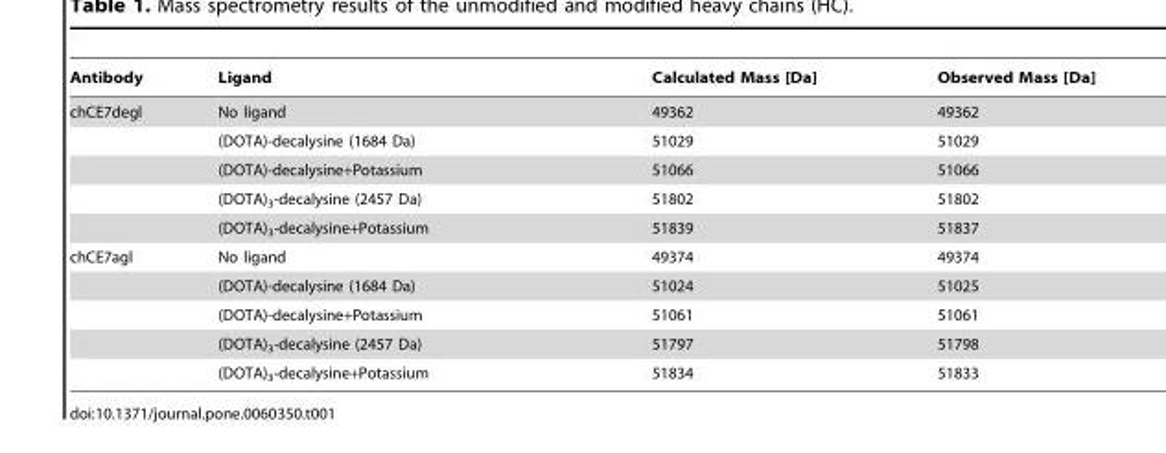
<table><thead><tr><td>Antibody</td><td>Ligand</td><td>Calculated Mass [Da]</td><td>Observed Mass [Da]</td></tr></thead><tbody><tr><td rowspan="5">chCE7degl</td><td>No ligand</td><td>49362</td><td>49362</td></tr><tr><td>(DOTA)-decalysine (1684 Da)</td><td>51029</td><td>51029</td></tr><tr><td>(DOTA)-decalysine+Potassium</td><td>51066</td><td>51066</td></tr><tr><td>(DOTA)<sub>3</sub>-decalysine (2457 Da)</td><td>51802</td><td>51802</td></tr><tr><td>(DOTA)<sub>3</sub>-decalysine+Potassium</td><td>51839</td><td>51837</td></tr><tr><td rowspan="5">chCE7agl</td><td>No ligand</td><td>49374</td><td>49374</td></tr><tr><td>(DOTA)-decalysine (1684 Da)</td><td>51024</td><td>51025</td></tr><tr><td>(DOTA)-decalysine+Potassium</td><td>51061</td><td>51061</td></tr><tr><td>(DOTA)<sub>3</sub>-decalysine (2457 Da)</td><td>51797</td><td>51798</td></tr><tr><td>(DOTA)<sub>3</sub>-decalysine+Potassium</td><td>51834</td><td>51833</td></tr></tbody></table>